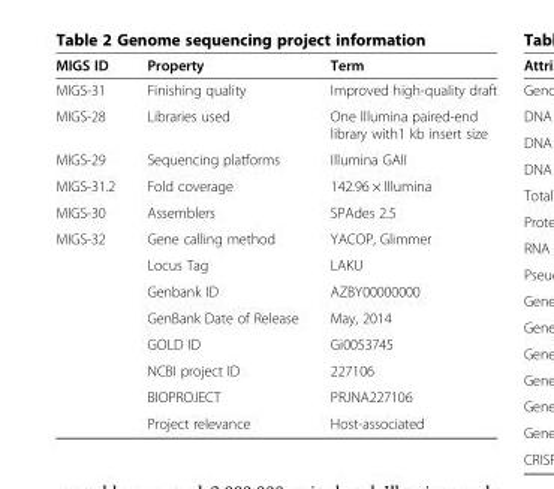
<table><thead><tr><td>MIGS ID</td><td>Property</td><td>Term</td></tr></thead><tbody><tr><td>MIGS-31</td><td>Finishing quality</td><td>Improved high-quality draft</td></tr><tr><td>MIGS-28</td><td>Libraries used</td><td>One Illumina paired-end library with1 kb insert size</td></tr><tr><td>MIGS-29</td><td>Sequencing platforms</td><td>Illumina GAII</td></tr><tr><td>MIGS-31.2</td><td>Fold coverage</td><td>142.96 × Illumina</td></tr><tr><td>MIGS-30</td><td>Assemblers</td><td>SPAdes 2.5</td></tr><tr><td rowspan="8">MIGS-32</td><td>Gene calling method</td><td>YACOP, Glimmer</td></tr><tr><td>Locus Tag</td><td>LAKU</td></tr><tr><td>Genbank ID</td><td>AZBY00000000</td></tr><tr><td>GenBank Date of Release</td><td>May, 2014</td></tr><tr><td>GOLD ID</td><td>Gi0053745</td></tr><tr><td>NCBI project ID</td><td>227106</td></tr><tr><td>BIOPROJECT</td><td>PRJNA227106</td></tr><tr><td>Project relevance</td><td>Host-associated</td></tr></tbody></table>